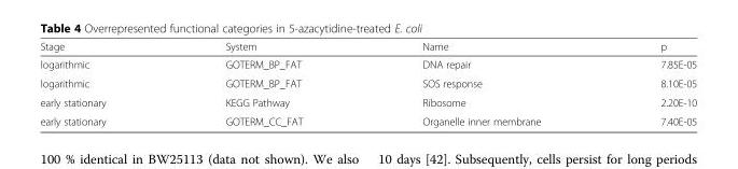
<table><thead><tr><td>Stage</td><td>System</td><td>Name</td><td>p</td></tr></thead><tbody><tr><td>logarithmic</td><td>GOTERM_BP_FAT</td><td>DNA repair</td><td>7.85E-05</td></tr><tr><td>logarithmic</td><td>GOTERM_BP_FAT</td><td>SOS response</td><td>8.10E-05</td></tr><tr><td>early stationary</td><td>KEGG Pathway</td><td>Ribosome</td><td>2.20E-10</td></tr><tr><td>early stationary</td><td>GOTERM_CC_FAT</td><td>Organelle inner membrane</td><td>7.40E-05</td></tr></tbody></table>